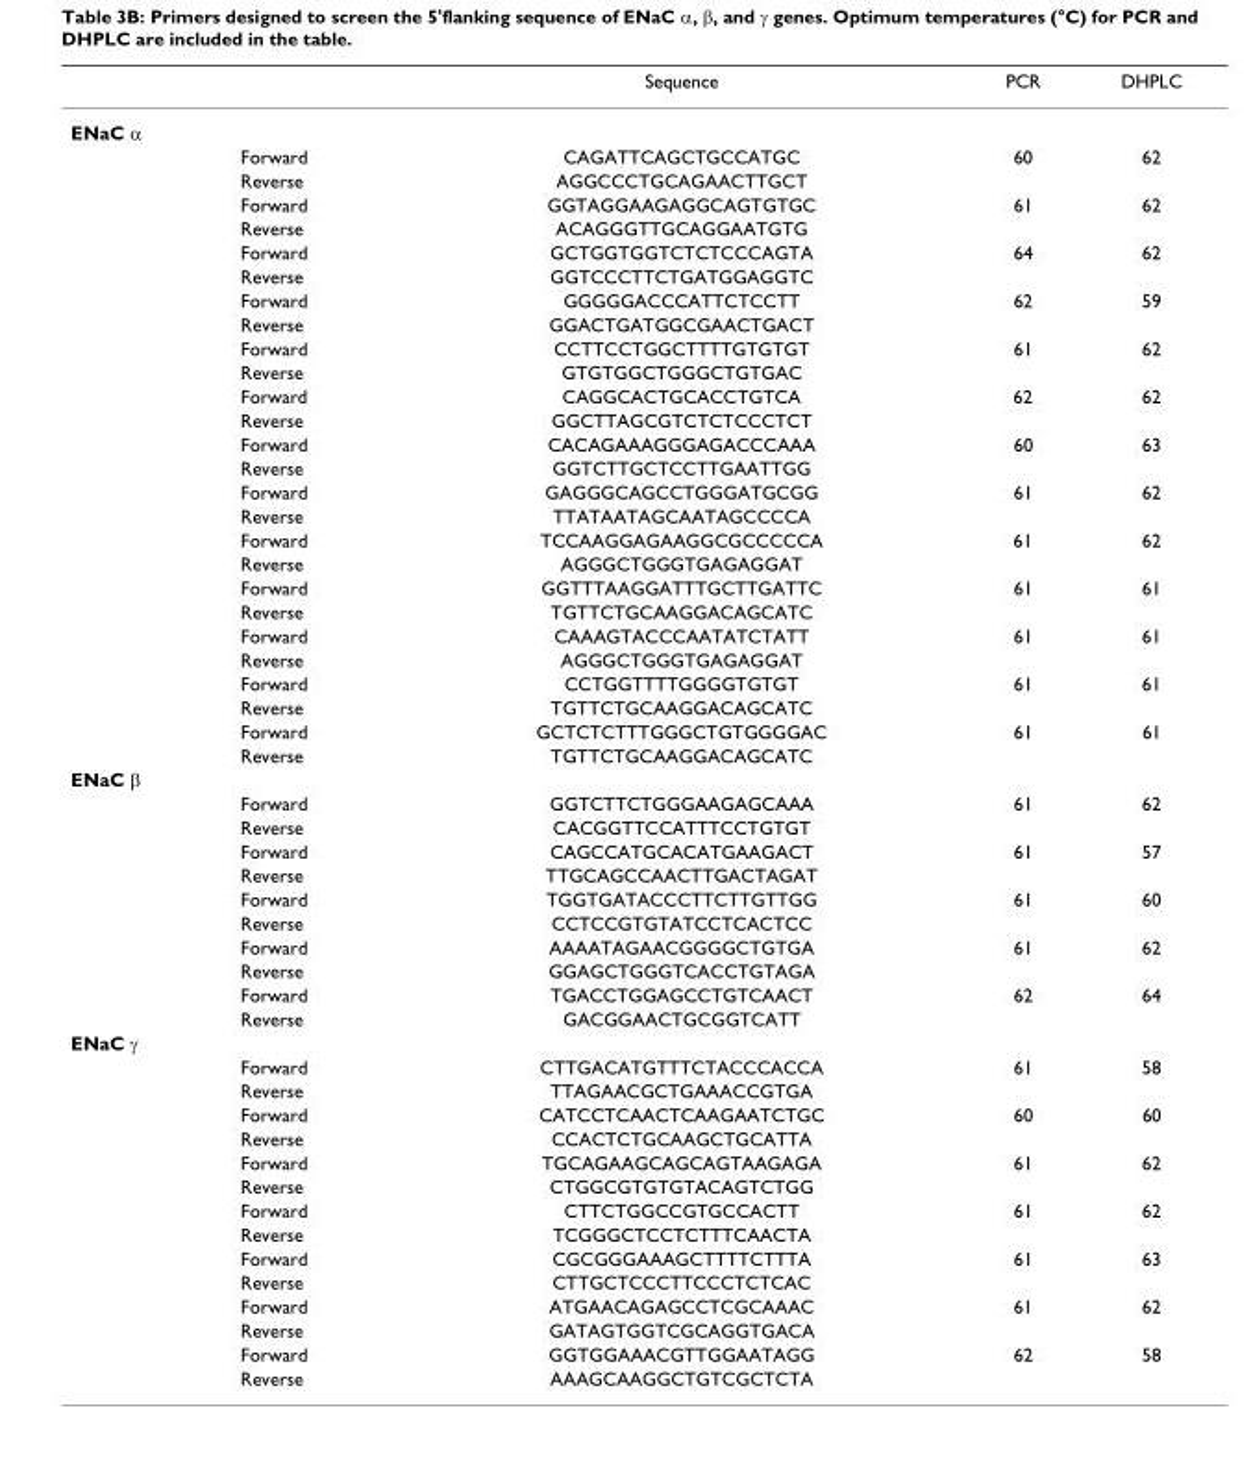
<table><thead><tr><td></td><td></td><td>Sequence</td><td>PCR</td><td>DHPLC</td></tr></thead><tbody><tr><td colspan="5">ENaC α</td></tr><tr><td></td><td>Forward</td><td>CAGATTCAGCTGCCATGC</td><td>60</td><td>62</td></tr><tr><td></td><td>Reverse</td><td>AGGCCCTGCAGAACTTGCT</td><td></td><td></td></tr><tr><td></td><td>Forward</td><td>GGTAGGAAGAGGCAGTGTGC</td><td>61</td><td>62</td></tr><tr><td></td><td>Reverse</td><td>ACAGGGTTGCAGGAATGTG</td><td></td><td></td></tr><tr><td></td><td>Forward</td><td>GCTGGTGGTCTCTCCCAGTA</td><td>64</td><td>62</td></tr><tr><td></td><td>Reverse</td><td>GGTCCCTTCTGATGGAGGTC</td><td></td><td></td></tr><tr><td></td><td>Forward</td><td>GGGGGACCCATTCTCCTT</td><td>62</td><td>59</td></tr><tr><td></td><td>Reverse</td><td>GGACTGATGGCGAACTGACT</td><td></td><td></td></tr><tr><td></td><td>Forward</td><td>CCTTCCTGGCTTTTGTGTGT</td><td>61</td><td>62</td></tr><tr><td></td><td>Reverse</td><td>GTGTGGCTGGGCTGTGAC</td><td></td><td></td></tr><tr><td></td><td>Forward</td><td>CAGGCACTGCACCTGTCA</td><td>62</td><td>62</td></tr><tr><td></td><td>Reverse</td><td>GGCTTAGCGTCTCTCCCTCT</td><td></td><td></td></tr><tr><td></td><td>Forward</td><td>CACAGAAAGGGAGACCCAAA</td><td>60</td><td>63</td></tr><tr><td></td><td>Reverse</td><td>GGTCTTGCTCCTTGAATTGG</td><td></td><td></td></tr><tr><td></td><td>Forward</td><td>GAGGGCAGCCTGGGATGCGG</td><td>61</td><td>62</td></tr><tr><td></td><td>Reverse</td><td>TTATAATAGCAATAGCCCCA</td><td></td><td></td></tr><tr><td></td><td>Forward</td><td>TCCAAGGAGAAGGCGCCCCCA</td><td>61</td><td>62</td></tr><tr><td></td><td>Reverse</td><td>AGGGCTGGGTGAGAGGAT</td><td></td><td></td></tr><tr><td></td><td>Forward</td><td>GGTTTAAGGATTTGCTTGATTC</td><td>61</td><td>61</td></tr><tr><td></td><td>Reverse</td><td>TGTTCTGCAAGGACAGCATC</td><td></td><td></td></tr><tr><td></td><td>Forward</td><td>CAAAGTACCCAATATCTATT</td><td>61</td><td>61</td></tr><tr><td></td><td>Reverse</td><td>AGGGCTGGGTGAGAGGAT</td><td></td><td></td></tr><tr><td></td><td>Forward</td><td>CCTGGTTTTGGGGTGTGT</td><td>61</td><td>61</td></tr><tr><td></td><td>Reverse</td><td>TGTTCTGCAAGGACAGCATC</td><td></td><td></td></tr><tr><td></td><td>Forward</td><td>GCTCTCTTTGGGCTGTGGGGAC</td><td>61</td><td>61</td></tr><tr><td></td><td>Reverse</td><td>TGTTCTGCAAGGACAGCATC</td><td></td><td></td></tr><tr><td colspan="5">ENaC β</td></tr><tr><td></td><td>Forward</td><td>GGTCTTCTGGGAAGAGCAAA</td><td>61</td><td>62</td></tr><tr><td></td><td>Reverse</td><td>CACGGTTCCATTTCCTGTGT</td><td></td><td></td></tr><tr><td></td><td>Forward</td><td>CAGCCATGCACATGAAGACT</td><td>61</td><td>57</td></tr><tr><td></td><td>Reverse</td><td>TTGCAGCCAACTTGACTAGAT</td><td></td><td></td></tr><tr><td></td><td>Forward</td><td>TGGTGATACCCTTCTTGTTGG</td><td>61</td><td>60</td></tr><tr><td></td><td>Reverse</td><td>CCTCCGTGTATCCTCACTCC</td><td></td><td></td></tr><tr><td></td><td>Forward</td><td>AAAATAGAACGGGGCTGTGA</td><td>61</td><td>62</td></tr><tr><td></td><td>Reverse</td><td>GGAGCTGGGTCACCTGTAGA</td><td></td><td></td></tr><tr><td></td><td>Forward</td><td>TGACCTGGAGCCTGTCAACT</td><td>62</td><td>64</td></tr><tr><td></td><td>Reverse</td><td>GACGGAACTGCGGTCATT</td><td></td><td></td></tr><tr><td colspan="5">ENaC γ</td></tr><tr><td></td><td>Forward</td><td>CTTGACATGTTTCTACCCACCA</td><td>61</td><td>58</td></tr><tr><td></td><td>Reverse</td><td>TTAGAACGCTGAAACCGTGA</td><td></td><td></td></tr><tr><td></td><td>Forward</td><td>CATCCTCAACTCAAGAATCTGC</td><td>60</td><td>60</td></tr><tr><td></td><td>Reverse</td><td>CCACTCTGCAAGCTGCATTA</td><td></td><td></td></tr><tr><td></td><td>Forward</td><td>TGCAGAAGCAGCAGTAAGAGA</td><td>61</td><td>62</td></tr><tr><td></td><td>Reverse</td><td>CTGGCGTGTGTACAGTCTGG</td><td></td><td></td></tr><tr><td></td><td>Forward</td><td>CTTCTGGCCGTGCCACTT</td><td>61</td><td>62</td></tr><tr><td></td><td>Reverse</td><td>TCGGGCTCCTCTTTCAACTA</td><td></td><td></td></tr><tr><td></td><td>Forward</td><td>CGCGGGAAAGCTTTTCTTTA</td><td>61</td><td>63</td></tr><tr><td></td><td>Reverse</td><td>CTTGCTCCCTTCCCTCTCAC</td><td></td><td></td></tr><tr><td></td><td>Forward</td><td>ATGAACAGAGCCTCGCAAAC</td><td>61</td><td>62</td></tr><tr><td></td><td>Reverse</td><td>GATAGTGGTCGCAGGTGACA</td><td></td><td></td></tr><tr><td></td><td>Forward</td><td>GGTGGAAACGTTGGAATAGG</td><td>62</td><td>58</td></tr><tr><td></td><td>Reverse</td><td>AAAGCAAGGCTGTCGCTCTA</td><td></td><td></td></tr></tbody></table>